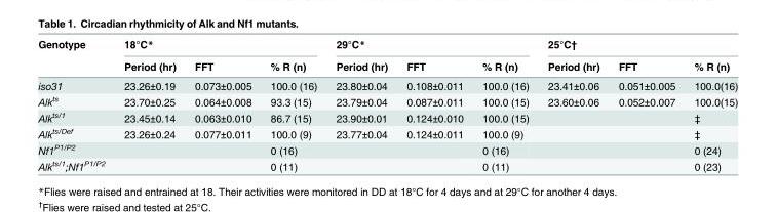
<table><thead><tr><td rowspan="2">Genotype</td><td colspan="3">18°C*</td><td colspan="3">29°C*</td><td colspan="3">25°C†</td></tr><tr><td>Period (hr)</td><td>FFT</td><td>% R (n)</td><td>Period (hr)</td><td>FFT</td><td>% R (n)</td><td>Period (hr)</td><td>FFT</td><td>% R (n)</td></tr></thead><tbody><tr><td>iso31</td><td>23.26±0.19</td><td>0.073±0.005</td><td>100.0 (16)</td><td>23.80±0.04</td><td>0.108±0.011</td><td>100.0 (16)</td><td>23.41±0.06</td><td>0.051±0.005</td><td>100.0(16)</td></tr><tr><td>Alk<sup>ts</sup></td><td>23.70±0.25</td><td>0.064±0.008</td><td>93.3 (15)</td><td>23.79±0.04</td><td>0.087±0.011</td><td>100.0 (15)</td><td>23.60±0.06</td><td>0.052±0.007</td><td>100.0(15)</td></tr><tr><td>Alk<sup>ts/1</sup></td><td>23.45±0.14</td><td>0.063±0.010</td><td>86.7 (15)</td><td>23.90±0.01</td><td>0.124±0.010</td><td>100.0 (15)</td><td></td><td></td><td>‡</td></tr><tr><td>Alk<sup>ts/Def</sup></td><td>23.26±0.24</td><td>0.077±0.011</td><td>100.0 (9)</td><td>23.77±0.04</td><td>0.124±0.011</td><td>100.0 (9)</td><td></td><td></td><td>‡</td></tr><tr><td>Nf1<sup>P1/P2</sup></td><td></td><td></td><td>0 (16)</td><td></td><td></td><td>0 (16)</td><td></td><td></td><td>0 (24)</td></tr><tr><td>Alk<sup>ts/1</sup>;Nf1<sup>P1/P2</sup></td><td></td><td></td><td>0 (11)</td><td></td><td></td><td>0 (11)</td><td></td><td></td><td>0 (23)</td></tr></tbody></table>